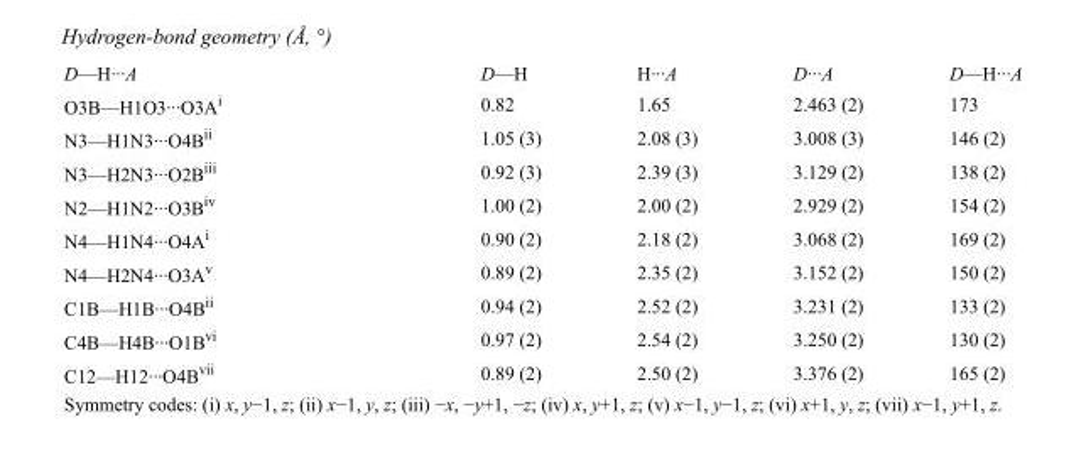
<table><tbody><tr><td>D—H···A</td><td>D—H</td><td>H···A</td><td>D···A</td><td>D—H···A</td></tr><tr><td>O3B—H1O3···O3A<sup>i</sup></td><td>0.82</td><td>1.65</td><td>2.463 (2)</td><td>173</td></tr><tr><td>N3—H1N3···O4B<sup>ii</sup></td><td>1.05 (3)</td><td>2.08 (3)</td><td>3.008 (3)</td><td>146 (2)</td></tr><tr><td>N3—H2N3···O2B<sup>iii</sup></td><td>0.92 (3)</td><td>2.39 (3)</td><td>3.129 (2)</td><td>138 (2)</td></tr><tr><td>N2—H1N2···O3B<sup>iv</sup></td><td>1.00 (2)</td><td>2.00 (2)</td><td>2.929 (2)</td><td>154 (2)</td></tr><tr><td>N4—H1N4···O4A<sup>i</sup></td><td>0.90 (2)</td><td>2.18 (2)</td><td>3.068 (2)</td><td>169 (2)</td></tr><tr><td>N4—H2N4···O3A<sup>v</sup></td><td>0.89 (2)</td><td>2.35 (2)</td><td>3.152 (2)</td><td>150 (2)</td></tr><tr><td>C1B—H1B···O4B<sup>ii</sup></td><td>0.94 (2)</td><td>2.52 (2)</td><td>3.231 (2)</td><td>133 (2)</td></tr><tr><td>C4B—H4B···O1B<sup>vi</sup></td><td>0.97 (2)</td><td>2.54 (2)</td><td>3.250 (2)</td><td>130 (2)</td></tr><tr><td>C12—H12···O4B<sup>vii</sup></td><td>0.89 (2)</td><td>2.50 (2)</td><td>3.376 (2)</td><td>165 (2)</td></tr></tbody></table>